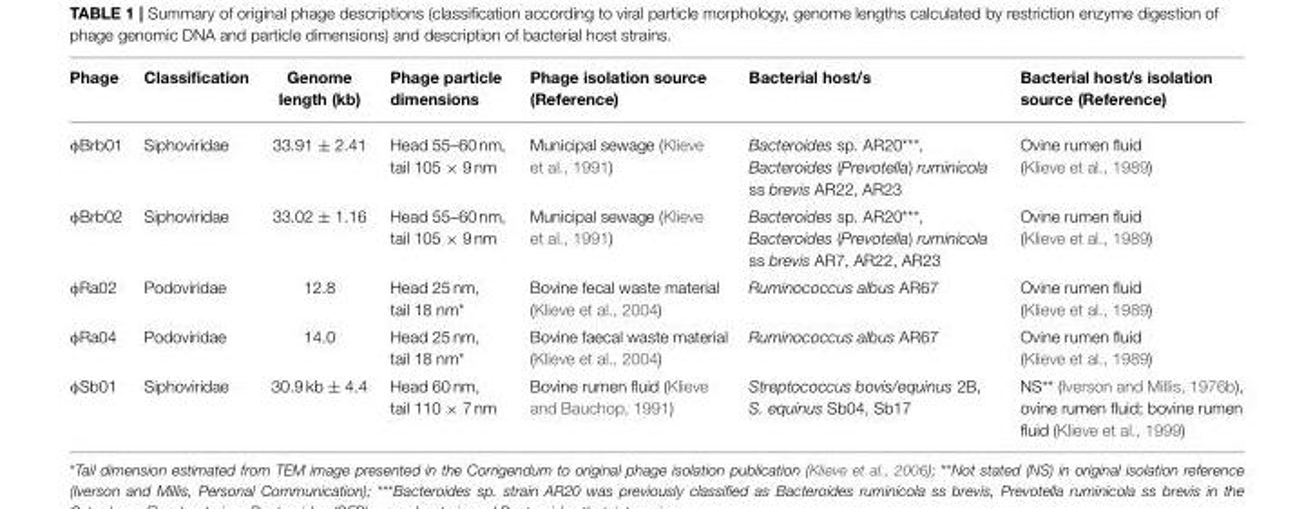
<table><thead><tr><td>Phage</td><td>Classification</td><td>Genome length (kb)</td><td>Phage particle dimensions</td><td>Phage isolation source (Reference)</td><td>Bacterial host/s</td><td>Bacterial host/s isolation source (Reference)</td></tr></thead><tbody><tr><td>φBrb01</td><td>Siphoviridae</td><td>33.91 ± 2.41</td><td>Head 55–60 nm, tail 105 × 9 nm</td><td>Municipal sewage (Klieve et al., 1991)</td><td>Bacteroides sp. AR20***, Bacteroides (Prevotella) ruminicola ss brevis AR22, AR23</td><td>Ovine rumen fluid (Klieve et al., 1989)</td></tr><tr><td>φBrb02</td><td>Siphoviridae</td><td>33.02 ± 1.16</td><td>Head 55–60 nm, tail 105 × 9 nm</td><td>Municipal sewage (Klieve et al., 1991)</td><td>Bacteroides sp. AR20***, Bacteroides (Prevotella) ruminicola ss brevis AR7, AR22, AR23</td><td>Ovine rumen fluid (Klieve et al., 1989)</td></tr><tr><td>φRa02</td><td>Podoviridae</td><td>12.8</td><td>Head 25 nm, tail 18 nm*</td><td>Bovine fecal waste material (Klieve et al., 2004)</td><td>Ruminococcus albus AR67</td><td>Ovine rumen fluid (Klieve et al., 1989)</td></tr><tr><td>φRa04</td><td>Podoviridae</td><td>14.0</td><td>Head 25 nm, tail 18 nm*</td><td>Bovine faecal waste material (Klieve et al., 2004)</td><td>Ruminococcus albus AR67</td><td>Ovine rumen fluid (Klieve et al., 1989)</td></tr><tr><td>φSb01</td><td>Siphoviridae</td><td>30.9 kb ± 4.4</td><td>Head 60 nm, tail 110 × 7 nm</td><td>Bovine rumen fluid (Klieve and Bauchop, 1991)</td><td>Streptococcus bovis/equinus 2B, S. equinus Sb04, Sb17</td><td>NS** (Iverson and Millis, 1976b), ovine rumen fluid; bovine rumen fluid (Klieve et al., 1999)</td></tr></tbody></table>